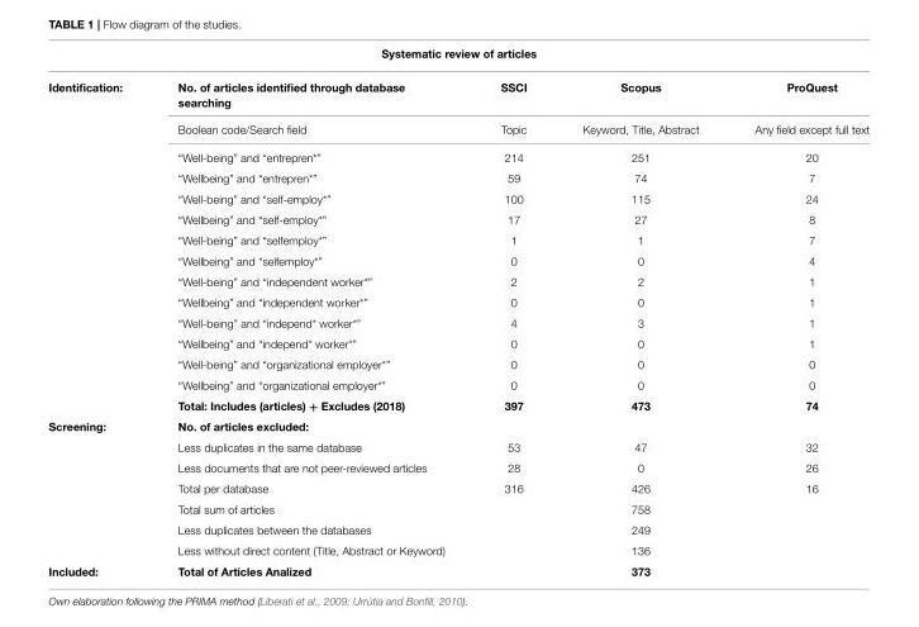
<table><thead><tr><td colspan="5">Systematic review of articles</td></tr><tr><td>Identification:</td><td>No. of articles identified through database searching</td><td>SSCI</td><td>Scopus</td><td>ProQuest</td></tr></thead><tbody><tr><td></td><td>Boolean code/Search field</td><td>Topic</td><td>Keyword, Title, Abstract</td><td>Any field except full text</td></tr><tr><td></td><td>“Well-being” and “entrepren*”</td><td>214</td><td>251</td><td>20</td></tr><tr><td></td><td>“Wellbeing” and “entrepren*”</td><td>59</td><td>74</td><td>7</td></tr><tr><td></td><td>“Well-being” and “self-employ*”</td><td>100</td><td>115</td><td>24</td></tr><tr><td></td><td>“Wellbeing” and “self-employ*”</td><td>17</td><td>27</td><td>8</td></tr><tr><td></td><td>“Well-being” and “selfemploy*”</td><td>1</td><td>1</td><td>7</td></tr><tr><td></td><td>“Wellbeing” and “selfemploy*”</td><td>0</td><td>0</td><td>4</td></tr><tr><td></td><td>“Well-being” and “independent worker*”</td><td>2</td><td>2</td><td>1</td></tr><tr><td></td><td>“Wellbeing” and “independent worker*”</td><td>0</td><td>0</td><td>1</td></tr><tr><td></td><td>“Well-being” and “independ* worker*”</td><td>4</td><td>3</td><td>1</td></tr><tr><td></td><td>“Wellbeing” and “independ* worker*”</td><td>0</td><td>0</td><td>1</td></tr><tr><td></td><td>“Well-being” and “organizational employer*”</td><td>0</td><td>0</td><td>0</td></tr><tr><td></td><td>“Wellbeing” and “organizational employer*”</td><td>0</td><td>0</td><td>0</td></tr><tr><td></td><td>Total: Includes (articles) + Excludes (2018)</td><td>397</td><td>473</td><td>74</td></tr><tr><td rowspan="7">Screening:</td><td colspan="4">No. of articles excluded:</td></tr><tr><td>Less duplicates in the same database</td><td>53</td><td>47</td><td>32</td></tr><tr><td>Less documents that are not peer-reviewed articles</td><td>28</td><td>0</td><td>26</td></tr><tr><td>Total per database</td><td>316</td><td>426</td><td>16</td></tr><tr><td>Total sum of articles</td><td></td><td>758</td><td></td></tr><tr><td>Less duplicates between the databases</td><td></td><td>249</td><td></td></tr><tr><td>Less without direct content (Title, Abstract or Keyword)</td><td></td><td>136</td><td></td></tr><tr><td>Included:</td><td>Total of Articles Analized</td><td></td><td>373</td><td></td></tr></tbody></table>